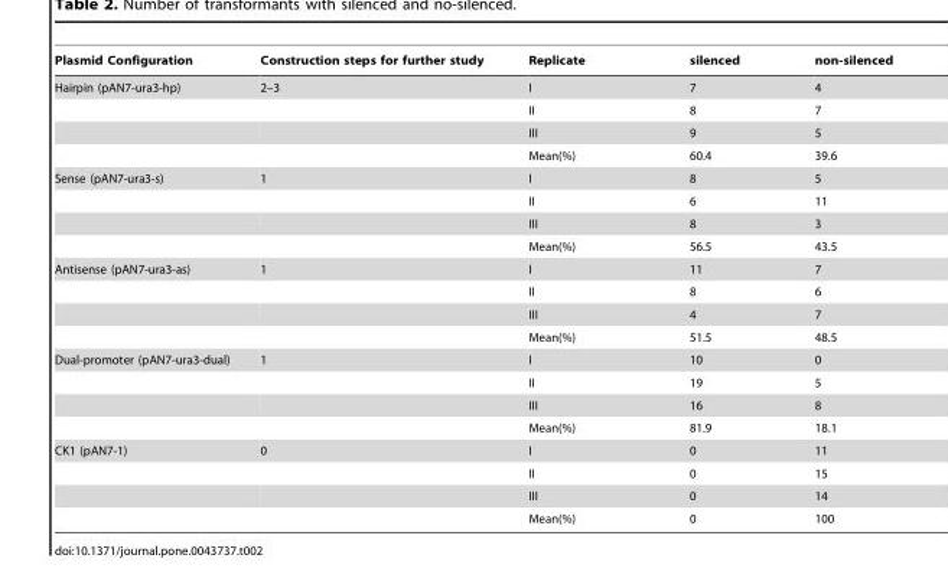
<table><thead><tr><td>Plasmid Configuration</td><td>Construction steps for further study</td><td>Replicate</td><td>silenced</td><td>non-silenced</td></tr></thead><tbody><tr><td rowspan="4">Hairpin (pAN7-ura3-hp)</td><td>2–3</td><td>I</td><td>7</td><td>4</td></tr><tr><td></td><td>II</td><td>8</td><td>7</td></tr><tr><td></td><td>III</td><td>9</td><td>5</td></tr><tr><td></td><td>Mean(%)</td><td>60.4</td><td>39.6</td></tr><tr><td rowspan="4">Sense (pAN7-ura3-s)</td><td>1</td><td>I</td><td>8</td><td>5</td></tr><tr><td></td><td>II</td><td>6</td><td>11</td></tr><tr><td></td><td>III</td><td>8</td><td>3</td></tr><tr><td></td><td>Mean(%)</td><td>56.5</td><td>43.5</td></tr><tr><td rowspan="4">Antisense (pAN7-ura3-as)</td><td>1</td><td>I</td><td>11</td><td>7</td></tr><tr><td></td><td>II</td><td>8</td><td>6</td></tr><tr><td></td><td>III</td><td>4</td><td>7</td></tr><tr><td></td><td>Mean(%)</td><td>51.5</td><td>48.5</td></tr><tr><td rowspan="4">Dual-promoter (pAN7-ura3-dual)</td><td>1</td><td>I</td><td>10</td><td>0</td></tr><tr><td></td><td>II</td><td>19</td><td>5</td></tr><tr><td></td><td>III</td><td>16</td><td>8</td></tr><tr><td></td><td>Mean(%)</td><td>81.9</td><td>18.1</td></tr><tr><td rowspan="4">CK1 (pAN7-1)</td><td>0</td><td>I</td><td>0</td><td>11</td></tr><tr><td></td><td>II</td><td>0</td><td>15</td></tr><tr><td></td><td>III</td><td>0</td><td>14</td></tr><tr><td></td><td>Mean(%)</td><td>0</td><td>100</td></tr></tbody></table>